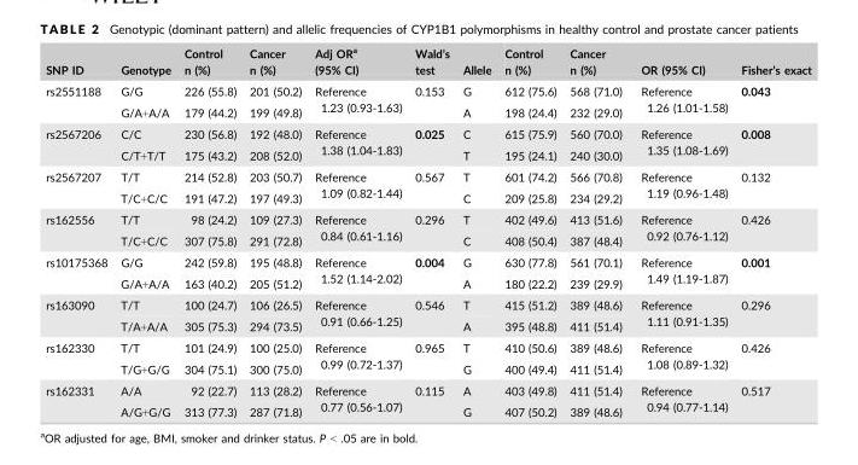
<table><thead><tr><td>SNP ID</td><td>Genotype</td><td>Control n (%)</td><td>Cancer n (%)</td><td>Adj OR<sup>a</sup> (95% CI)</td><td>Wald’s test</td><td>Allele</td><td>Control n (%)</td><td>Cancer n (%)</td><td>OR (95% CI)</td><td>Fisher’s exact</td></tr></thead><tbody><tr><td rowspan="2">rs2551188</td><td>G/G</td><td>226 (55.8)</td><td>201 (50.2)</td><td rowspan="2">Reference 1.23 (0.93-1.63)</td><td rowspan="2">0.153</td><td>G</td><td>612 (75.6)</td><td>568 (71.0)</td><td rowspan="2">Reference 1.26 (1.01-1.58)</td><td rowspan="2">0.043</td></tr><tr><td>G/A+A/A</td><td>179 (44.2)</td><td>199 (49.8)</td><td>A</td><td>198 (24.4)</td><td>232 (29.0)</td></tr><tr><td rowspan="2">rs2567206</td><td>C/C</td><td>230 (56.8)</td><td>192 (48.0)</td><td rowspan="2">Reference 1.38 (1.04-1.83)</td><td rowspan="2">0.025</td><td>C</td><td>615 (75.9)</td><td>560 (70.0)</td><td rowspan="2">Reference 1.35 (1.08-1.69)</td><td rowspan="2">0.008</td></tr><tr><td>C/T+T/T</td><td>175 (43.2)</td><td>208 (52.0)</td><td>T</td><td>195 (24.1)</td><td>240 (30.0)</td></tr><tr><td rowspan="2">rs2567207</td><td>T/T</td><td>214 (52.8)</td><td>203 (50.7)</td><td rowspan="2">Reference 1.09 (0.82-1.44)</td><td rowspan="2">0.567</td><td>T</td><td>601 (74.2)</td><td>566 (70.8)</td><td rowspan="2">Reference 1.19 (0.96-1.48)</td><td rowspan="2">0.132</td></tr><tr><td>T/C+C/C</td><td>191 (47.2)</td><td>197 (49.3)</td><td>C</td><td>209 (25.8)</td><td>234 (29.2)</td></tr><tr><td rowspan="2">rs162556</td><td>T/T</td><td>98 (24.2)</td><td>109 (27.3)</td><td rowspan="2">Reference 0.84 (0.61-1.16)</td><td rowspan="2">0.296</td><td>T</td><td>402 (49.6)</td><td>413 (51.6)</td><td rowspan="2">Reference 0.92 (0.76-1.12)</td><td rowspan="2">0.426</td></tr><tr><td>T/C+C/C</td><td>307 (75.8)</td><td>291 (72.8)</td><td>C</td><td>408 (50.4)</td><td>387 (48.4)</td></tr><tr><td rowspan="2">rs10175368</td><td>G/G</td><td>242 (59.8)</td><td>195 (48.8)</td><td rowspan="2">Reference 1.52 (1.14-2.02)</td><td rowspan="2">0.004</td><td>G</td><td>630 (77.8)</td><td>561 (70.1)</td><td rowspan="2">Reference 1.49 (1.19-1.87)</td><td rowspan="2">0.001</td></tr><tr><td>G/A+A/A</td><td>163 (40.2)</td><td>205 (51.2)</td><td>A</td><td>180 (22.2)</td><td>239 (29.9)</td></tr><tr><td rowspan="2">rs163090</td><td>T/T</td><td>100 (24.7)</td><td>106 (26.5)</td><td rowspan="2">Reference 0.91 (0.66-1.25)</td><td rowspan="2">0.546</td><td>T</td><td>415 (51.2)</td><td>389 (48.6)</td><td rowspan="2">Reference 1.11 (0.91-1.35)</td><td rowspan="2">0.296</td></tr><tr><td>T/A+A/A</td><td>305 (75.3)</td><td>294 (73.5)</td><td>A</td><td>395 (48.8)</td><td>411 (51.4)</td></tr><tr><td rowspan="2">rs162330</td><td>T/T</td><td>101 (24.9)</td><td>100 (25.0)</td><td rowspan="2">Reference 0.99 (0.72-1.37)</td><td rowspan="2">0.965</td><td>T</td><td>410 (50.6)</td><td>389 (48.6)</td><td rowspan="2">Reference 1.08 (0.89-1.32)</td><td rowspan="2">0.426</td></tr><tr><td>T/G+G/G</td><td>304 (75.1)</td><td>300 (75.0)</td><td>G</td><td>400 (49.4)</td><td>411 (51.4)</td></tr><tr><td rowspan="2">rs162331</td><td>A/A</td><td>92 (22.7)</td><td>113 (28.2)</td><td rowspan="2">Reference 0.77 (0.56-1.07)</td><td rowspan="2">0.115</td><td>A</td><td>403 (49.8)</td><td>411 (51.4)</td><td rowspan="2">Reference 0.94 (0.77-1.14)</td><td rowspan="2">0.517</td></tr><tr><td>A/G+G/G</td><td>313 (77.3)</td><td>287 (71.8)</td><td>G</td><td>407 (50.2)</td><td>389 (48.6)</td></tr></tbody></table>